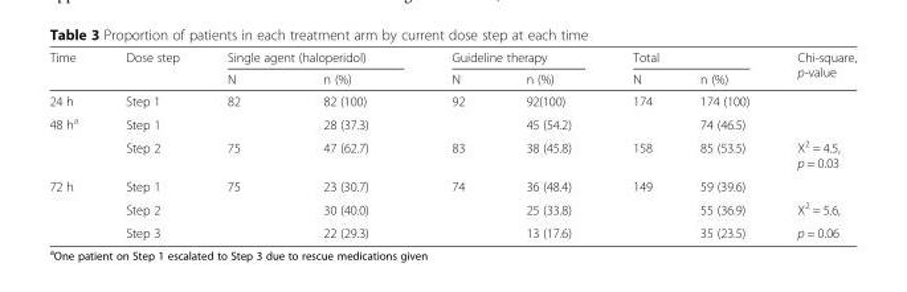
<table><thead><tr><td rowspan="2">Time</td><td rowspan="2">Dose step</td><td colspan="2">Single agent (haloperidol)</td><td colspan="2">Guideline therapy</td><td colspan="2">Total</td><td rowspan="2">Chi-square, p-value</td></tr><tr><td>N</td><td>n (%)</td><td>N</td><td>n (%)</td><td>N</td><td>n (%)</td></tr></thead><tbody><tr><td>24 h</td><td>Step 1</td><td>82</td><td>82 (100)</td><td>92</td><td>92(100)</td><td>174</td><td>174 (100)</td><td></td></tr><tr><td rowspan="2">48 h<sup>a</sup></td><td>Step 1</td><td></td><td>28 (37.3)</td><td></td><td>45 (54.2)</td><td></td><td>74 (46.5)</td><td></td></tr><tr><td>Step 2</td><td>75</td><td>47 (62.7)</td><td>83</td><td>38 (45.8)</td><td>158</td><td>85 (53.5)</td><td>Χ<sup>2</sup> = 4.5, p = 0.03</td></tr><tr><td rowspan="3">72 h</td><td>Step 1</td><td rowspan="3">75</td><td>23 (30.7)</td><td rowspan="3">74</td><td>36 (48.4)</td><td rowspan="3">149</td><td>59 (39.6)</td><td></td></tr><tr><td>Step 2</td><td>30 (40.0)</td><td>25 (33.8)</td><td>55 (36.9)</td><td>Χ<sup>2</sup> = 5.6,</td></tr><tr><td>Step 3</td><td>22 (29.3)</td><td>13 (17.6)</td><td>35 (23.5)</td><td>p = 0.06</td></tr></tbody></table>